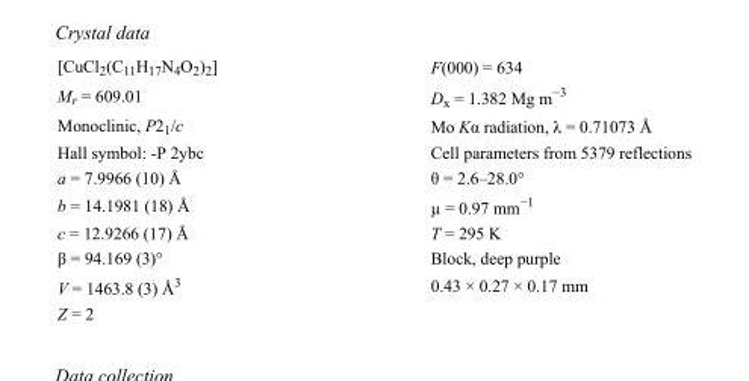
<table><tbody><tr><td>[CuCl<sub>2</sub>(C<sub>11</sub>H<sub>17</sub>N<sub>4</sub>O<sub>2</sub>)<sub>2</sub>]</td><td>F(000) = 634</td></tr><tr><td>M<sub>r</sub> = 609.01</td><td>D<sub>x</sub> = 1.382 Mg m<sup>−3</sup></td></tr><tr><td>Monoclinic, P2<sub>1</sub>/c</td><td>Mo Kα radiation, λ = 0.71073 Å</td></tr><tr><td>Hall symbol: -P 2ybc</td><td>Cell parameters from 5379 reflections</td></tr><tr><td>a = 7.9966 (10) Å</td><td>θ = 2.6–28.0°</td></tr><tr><td>b = 14.1981 (18) Å</td><td>µ = 0.97 mm<sup>−1</sup></td></tr><tr><td>c = 12.9266 (17) Å</td><td>T = 295 K</td></tr><tr><td>β = 94.169 (3)°</td><td>Block, deep purple</td></tr><tr><td>V = 1463.8 (3) Å<sup>3</sup></td><td>0.43 × 0.27 × 0.17 mm</td></tr><tr><td>Z = 2</td><td></td></tr></tbody></table>